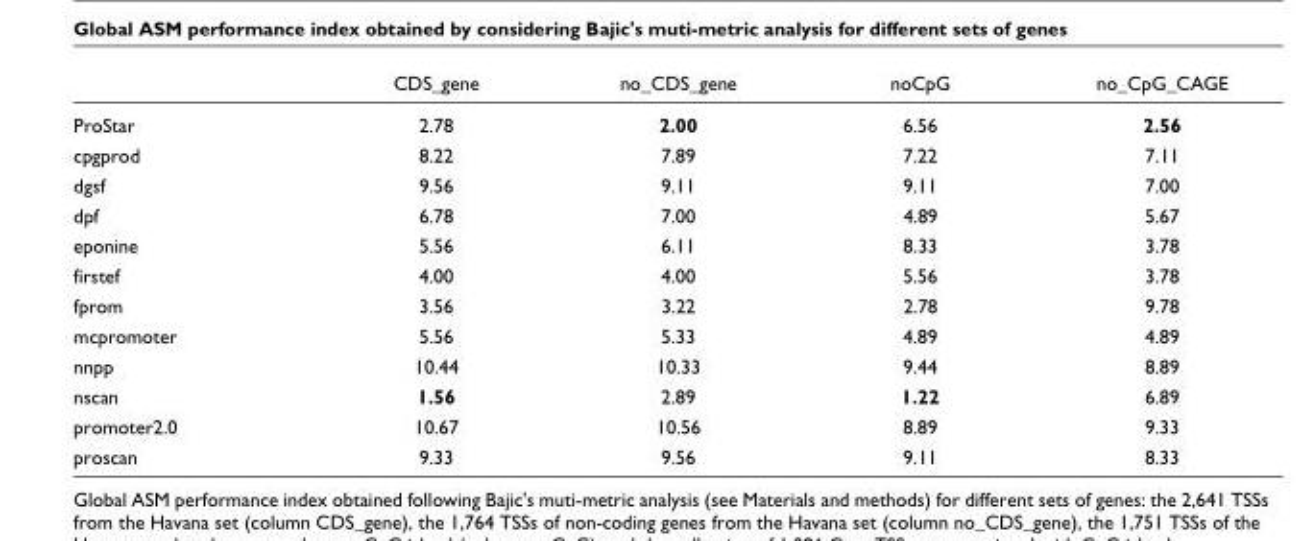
<table><thead><tr><td></td><td>CDS_gene</td><td>no_CDS_gene</td><td>noCpG</td><td>no_CpG_CAGE</td></tr></thead><tbody><tr><td>ProStar</td><td>2.78</td><td>2.00</td><td>6.56</td><td>2.56</td></tr><tr><td>cpgprod</td><td>8.22</td><td>7.89</td><td>7.22</td><td>7.11</td></tr><tr><td>dgsf</td><td>9.56</td><td>9.11</td><td>9.11</td><td>7.00</td></tr><tr><td>dpf</td><td>6.78</td><td>7.00</td><td>4.89</td><td>5.67</td></tr><tr><td>eponine</td><td>5.56</td><td>6.11</td><td>8.33</td><td>3.78</td></tr><tr><td>firstef</td><td>4.00</td><td>4.00</td><td>5.56</td><td>3.78</td></tr><tr><td>fprom</td><td>3.56</td><td>3.22</td><td>2.78</td><td>9.78</td></tr><tr><td>mcpromoter</td><td>5.56</td><td>5.33</td><td>4.89</td><td>4.89</td></tr><tr><td>nnpp</td><td>10.44</td><td>10.33</td><td>9.44</td><td>8.89</td></tr><tr><td>nscan</td><td>1.56</td><td>2.89</td><td>1.22</td><td>6.89</td></tr><tr><td>promoter2.0</td><td>10.67</td><td>10.56</td><td>8.89</td><td>9.33</td></tr><tr><td>proscan</td><td>9.33</td><td>9.56</td><td>9.11</td><td>8.33</td></tr></tbody></table>